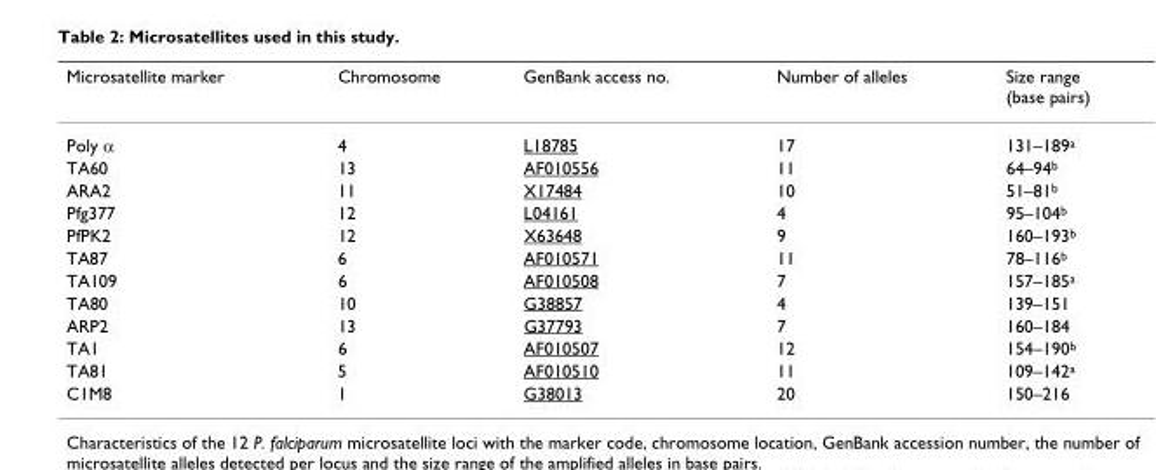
<table><thead><tr><td>Microsatellite marker</td><td>Chromosome</td><td>GenBank access no.</td><td>Number of alleles</td><td>Size range (base pairs)</td></tr></thead><tbody><tr><td>Poly α</td><td>4</td><td>L18785</td><td>17</td><td>131–189<sup>a</sup></td></tr><tr><td>TA60</td><td>13</td><td>AF010556</td><td>11</td><td>64–94<sup>b</sup></td></tr><tr><td>ARA2</td><td>11</td><td>X17484</td><td>10</td><td>51–81<sup>b</sup></td></tr><tr><td>Pfg377</td><td>12</td><td>L04161</td><td>4</td><td>95–104<sup>b</sup></td></tr><tr><td>PfPK2</td><td>12</td><td>X63648</td><td>9</td><td>160–193<sup>b</sup></td></tr><tr><td>TA87</td><td>6</td><td>AF010571</td><td>11</td><td>78–116<sup>b</sup></td></tr><tr><td>TA109</td><td>6</td><td>AF010508</td><td>7</td><td>157–185<sup>a</sup></td></tr><tr><td>TA80</td><td>10</td><td>G38857</td><td>4</td><td>139–151</td></tr><tr><td>ARP2</td><td>13</td><td>G37793</td><td>7</td><td>160–184</td></tr><tr><td>TA1</td><td>6</td><td>AF010507</td><td>12</td><td>154–190<sup>b</sup></td></tr><tr><td>TA81</td><td>5</td><td>AF010510</td><td>11</td><td>109–142<sup>a</sup></td></tr><tr><td>C1M8</td><td>1</td><td>G38013</td><td>20</td><td>150–216</td></tr></tbody></table>